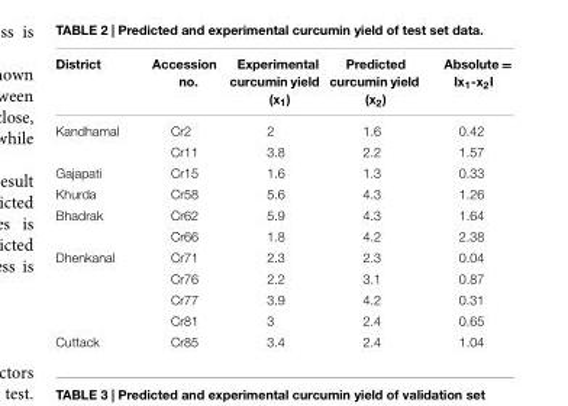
<table><thead><tr><td>District</td><td>Accession no.</td><td>Experimental curcumin yield (x<sub>1</sub>)</td><td>Predicted curcumin yield (x<sub>2</sub>)</td><td>Absolute = Ix<sub>1</sub>-x<sub>2</sub>I</td></tr></thead><tbody><tr><td rowspan="2">Kandhamal</td><td>Cr2</td><td>2</td><td>1.6</td><td>0.42</td></tr><tr><td>Cr11</td><td>3.8</td><td>2.2</td><td>1.57</td></tr><tr><td>Gajapati</td><td>Cr15</td><td>1.6</td><td>1.3</td><td>0.33</td></tr><tr><td>Khurda</td><td>Cr58</td><td>5.6</td><td>4.3</td><td>1.26</td></tr><tr><td rowspan="2">Bhadrak</td><td>Cr62</td><td>5.9</td><td>4.3</td><td>1.64</td></tr><tr><td>Cr66</td><td>1.8</td><td>4.2</td><td>2.38</td></tr><tr><td rowspan="4">Dhenkanal</td><td>Cr71</td><td>2.3</td><td>2.3</td><td>0.04</td></tr><tr><td>Cr76</td><td>2.2</td><td>3.1</td><td>0.87</td></tr><tr><td>Cr77</td><td>3.9</td><td>4.2</td><td>0.31</td></tr><tr><td>Cr81</td><td>3</td><td>2.4</td><td>0.65</td></tr><tr><td>Cuttack</td><td>Cr85</td><td>3.4</td><td>2.4</td><td>1.04</td></tr></tbody></table>